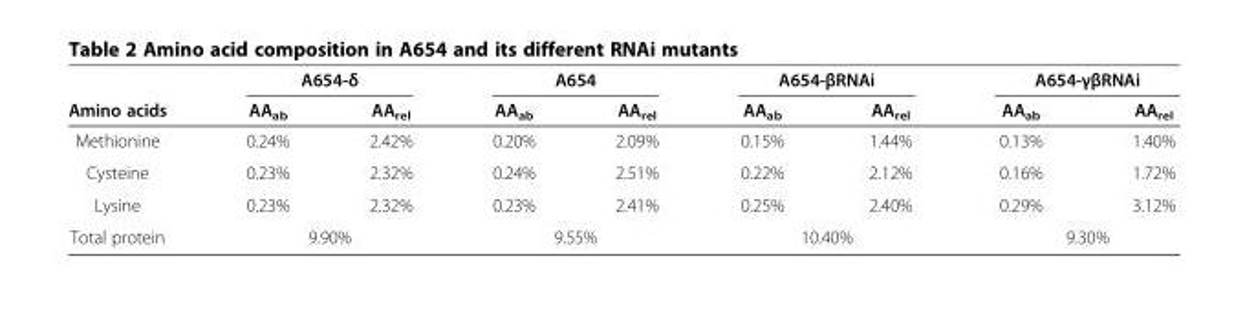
<table><thead><tr><td rowspan="2">Amino acids</td><td colspan="2">A654-δ</td><td colspan="2">A654</td><td colspan="2">A654-βRNAi</td><td colspan="2">A654-γβRNAi</td></tr><tr><td>AA<sub>ab</sub></td><td>AA<sub>rel</sub></td><td>AA<sub>ab</sub></td><td>AA<sub>rel</sub></td><td>AA<sub>ab</sub></td><td>AA<sub>rel</sub></td><td>AA<sub>ab</sub></td><td>AA<sub>rel</sub></td></tr></thead><tbody><tr><td>Methionine</td><td>0.24%</td><td>2.42%</td><td>0.20%</td><td>2.09%</td><td>0.15%</td><td>1.44%</td><td>0.13%</td><td>1.40%</td></tr><tr><td>Cysteine</td><td>0.23%</td><td>2.32%</td><td>0.24%</td><td>2.51%</td><td>0.22%</td><td>2.12%</td><td>0.16%</td><td>1.72%</td></tr><tr><td>Lysine</td><td>0.23%</td><td>2.32%</td><td>0.23%</td><td>2.41%</td><td>0.25%</td><td>2.40%</td><td>0.29%</td><td>3.12%</td></tr><tr><td>Total protein</td><td colspan="2">9.90%</td><td colspan="2">9.55%</td><td colspan="2">10.40%</td><td colspan="2">9.30%</td></tr></tbody></table>